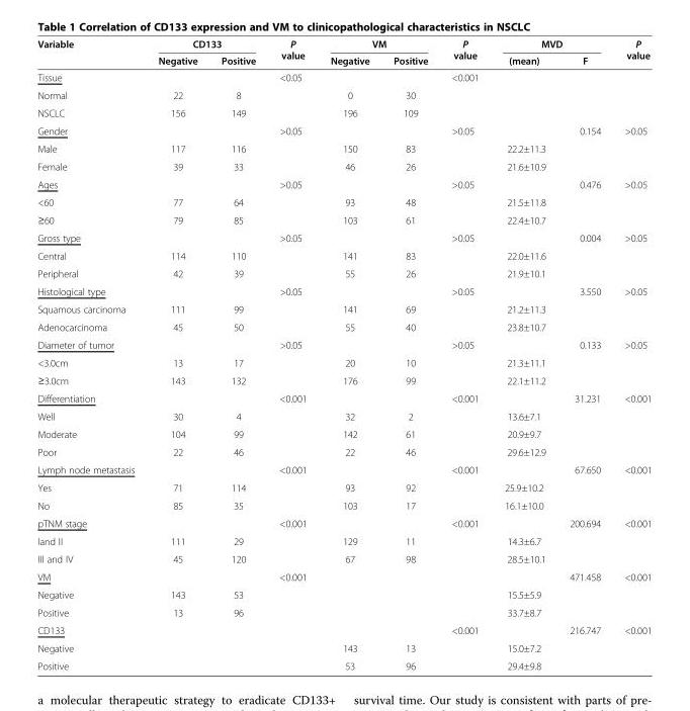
<table><thead><tr><td rowspan="2">Variable</td><td colspan="2">CD133</td><td rowspan="2">P value</td><td colspan="2">VM</td><td rowspan="2">P value</td><td colspan="2">MVD</td><td rowspan="2">P value</td></tr><tr><td>Negative</td><td>Positive</td><td>Negative</td><td>Positive</td><td>(mean)</td><td>F</td></tr></thead><tbody><tr><td>Tissue</td><td></td><td></td><td>&lt;0.05</td><td></td><td></td><td>&lt;0.001</td><td></td><td></td><td></td></tr><tr><td>Normal</td><td>22</td><td>8</td><td></td><td>0</td><td>30</td><td></td><td></td><td></td><td></td></tr><tr><td>NSCLC</td><td>156</td><td>149</td><td></td><td>196</td><td>109</td><td></td><td></td><td></td><td></td></tr><tr><td>Gender</td><td></td><td></td><td>&gt;0.05</td><td></td><td></td><td>&gt;0.05</td><td></td><td>0.154</td><td>&gt;0.05</td></tr><tr><td>Male</td><td>117</td><td>116</td><td></td><td>150</td><td>83</td><td></td><td>22.2±11.3</td><td></td><td></td></tr><tr><td>Female</td><td>39</td><td>33</td><td></td><td>46</td><td>26</td><td></td><td>21.6±10.9</td><td></td><td></td></tr><tr><td>Ages</td><td></td><td></td><td>&gt;0.05</td><td></td><td></td><td>&gt;0.05</td><td></td><td>0.476</td><td>&gt;0.05</td></tr><tr><td>&lt;60</td><td>77</td><td>64</td><td></td><td>93</td><td>48</td><td></td><td>21.5±11.8</td><td></td><td></td></tr><tr><td>≥60</td><td>79</td><td>85</td><td></td><td>103</td><td>61</td><td></td><td>22.4±10.7</td><td></td><td></td></tr><tr><td>Gross type</td><td></td><td></td><td>&gt;0.05</td><td></td><td></td><td>&gt;0.05</td><td></td><td>0.004</td><td>&gt;0.05</td></tr><tr><td>Central</td><td>114</td><td>110</td><td></td><td>141</td><td>83</td><td></td><td>22.0±11.6</td><td></td><td></td></tr><tr><td>Peripheral</td><td>42</td><td>39</td><td></td><td>55</td><td>26</td><td></td><td>21.9±10.1</td><td></td><td></td></tr><tr><td>Histological type</td><td></td><td></td><td>&gt;0.05</td><td></td><td></td><td>&gt;0.05</td><td></td><td>3.550</td><td>&gt;0.05</td></tr><tr><td>Squamous carcinoma</td><td>111</td><td>99</td><td></td><td>141</td><td>69</td><td></td><td>21.2±11.3</td><td></td><td></td></tr><tr><td>Adenocarcinoma</td><td>45</td><td>50</td><td></td><td>55</td><td>40</td><td></td><td>23.8±10.7</td><td></td><td></td></tr><tr><td>Diameter of tumor</td><td></td><td></td><td>&gt;0.05</td><td></td><td></td><td>&gt;0.05</td><td></td><td>0.133</td><td>&gt;0.05</td></tr><tr><td>&lt;3.0cm</td><td>13</td><td>17</td><td></td><td>20</td><td>10</td><td></td><td>21.3±11.1</td><td></td><td></td></tr><tr><td>≥3.0cm</td><td>143</td><td>132</td><td></td><td>176</td><td>99</td><td></td><td>22.1±11.2</td><td></td><td></td></tr><tr><td>Differentiation</td><td></td><td></td><td>&lt;0.001</td><td></td><td></td><td>&lt;0.001</td><td></td><td>31.231</td><td>&lt;0.001</td></tr><tr><td>Well</td><td>30</td><td>4</td><td></td><td>32</td><td>2</td><td></td><td>13.6±7.1</td><td></td><td></td></tr><tr><td>Moderate</td><td>104</td><td>99</td><td></td><td>142</td><td>61</td><td></td><td>20.9±9.7</td><td></td><td></td></tr><tr><td>Poor</td><td>22</td><td>46</td><td></td><td>22</td><td>46</td><td></td><td>29.6±12.9</td><td></td><td></td></tr><tr><td>Lymph node metastasis</td><td></td><td></td><td>&lt;0.001</td><td></td><td></td><td>&lt;0.001</td><td></td><td>67.650</td><td>&lt;0.001</td></tr><tr><td>Yes</td><td>71</td><td>114</td><td></td><td>93</td><td>92</td><td></td><td>25.9±10.2</td><td></td><td></td></tr><tr><td>No</td><td>85</td><td>35</td><td></td><td>103</td><td>17</td><td></td><td>16.1±10.0</td><td></td><td></td></tr><tr><td>pTNM stage</td><td></td><td></td><td>&lt;0.001</td><td></td><td></td><td>&lt;0.001</td><td></td><td>200.694</td><td>&lt;0.001</td></tr><tr><td>Iand II</td><td>111</td><td>29</td><td></td><td>129</td><td>11</td><td></td><td>14.3±6.7</td><td></td><td></td></tr><tr><td>III and IV</td><td>45</td><td>120</td><td></td><td>67</td><td>98</td><td></td><td>28.5±10.1</td><td></td><td></td></tr><tr><td>VM</td><td></td><td></td><td>&lt;0.001</td><td></td><td></td><td></td><td></td><td>471.458</td><td>&lt;0.001</td></tr><tr><td>Negative</td><td>143</td><td>53</td><td></td><td></td><td></td><td></td><td>15.5±5.9</td><td></td><td></td></tr><tr><td>Positive</td><td>13</td><td>96</td><td></td><td></td><td></td><td></td><td>33.7±8.7</td><td></td><td></td></tr><tr><td>CD133</td><td></td><td></td><td></td><td></td><td></td><td>&lt;0.001</td><td></td><td>216.747</td><td>&lt;0.001</td></tr><tr><td>Negative</td><td></td><td></td><td></td><td>143</td><td>13</td><td></td><td>15.0±7.2</td><td></td><td></td></tr><tr><td>Positive</td><td></td><td></td><td></td><td>53</td><td>96</td><td></td><td>29.4±9.8</td><td></td><td></td></tr></tbody></table>